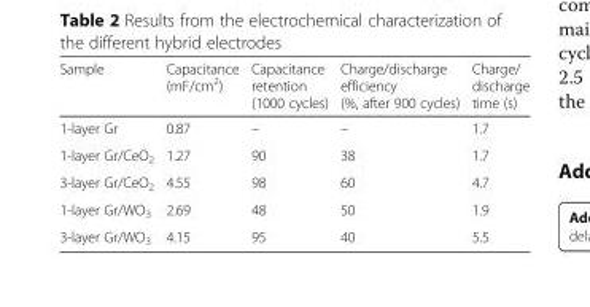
<table><thead><tr><td>Sample</td><td>Capacitance (mF/cm<sup>2</sup>)</td><td>Capacitance retention (1000 cycles)</td><td>Charge/discharge efficiency (%, after 900 cycles)</td><td>Charge/ discharge time (s)</td></tr></thead><tbody><tr><td>1-layer Gr</td><td>0.87</td><td>–</td><td>–</td><td>1.7</td></tr><tr><td>1-layer Gr/CeO<sub>2</sub></td><td>1.27</td><td>90</td><td>38</td><td>1.7</td></tr><tr><td>3-layer Gr/CeO<sub>2</sub></td><td>4.55</td><td>98</td><td>60</td><td>4.7</td></tr><tr><td>1-layer Gr/WO<sub>3</sub></td><td>2.69</td><td>48</td><td>50</td><td>1.9</td></tr><tr><td>3-layer Gr/WO<sub>3</sub></td><td>4.15</td><td>95</td><td>40</td><td>5.5</td></tr></tbody></table>